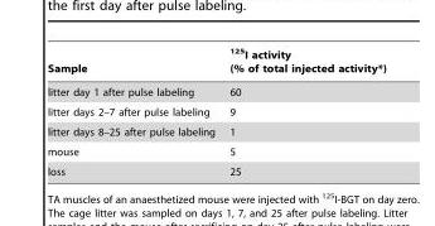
<table><thead><tr><td>Sample</td><td><sup>125</sup>I activity (% of total injected activity*)</td></tr></thead><tbody><tr><td>litter day 1 after pulse labeling</td><td>60</td></tr><tr><td>litter days 2–7 after pulse labeling</td><td>9</td></tr><tr><td>litter days 8–25 after pulse labeling</td><td>1</td></tr><tr><td>mouse</td><td>5</td></tr><tr><td>loss</td><td>25</td></tr></tbody></table>